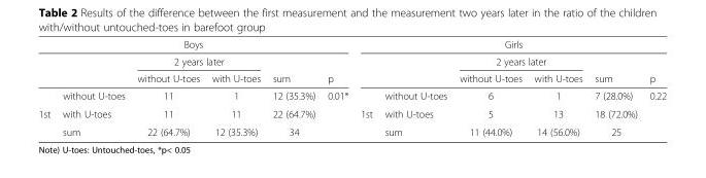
<table><thead><tr><td colspan="6">Boys</td><td colspan="6">Girls</td></tr><tr><td rowspan="2"></td><td rowspan="2"></td><td colspan="2">2 years later</td><td rowspan="2">sum</td><td rowspan="2">p</td><td rowspan="2"></td><td rowspan="2"></td><td colspan="2">2 years later</td><td rowspan="2">sum</td><td rowspan="2">p</td></tr><tr><td>without U-toes</td><td>with U-toes</td><td>without U-toes</td><td>with U-toes</td></tr></thead><tbody><tr><td rowspan="3">1st</td><td>without U-toes</td><td>11</td><td>1</td><td>12 (35.3%)</td><td>0.01*</td><td rowspan="3">1st</td><td>without U-toes</td><td>6</td><td>1</td><td>7 (28.0%)</td><td rowspan="2">0.22</td></tr><tr><td>with U-toes</td><td>11</td><td>11</td><td>22 (64.7%)</td><td></td><td>with U-toes</td><td>5</td><td>13</td><td>18 (72.0%)</td></tr><tr><td>sum</td><td>22 (64.7%)</td><td>12 (35.3%)</td><td>34</td><td></td><td>sum</td><td>11 (44.0%)</td><td>14 (56.0%)</td><td>25</td><td></td></tr></tbody></table>